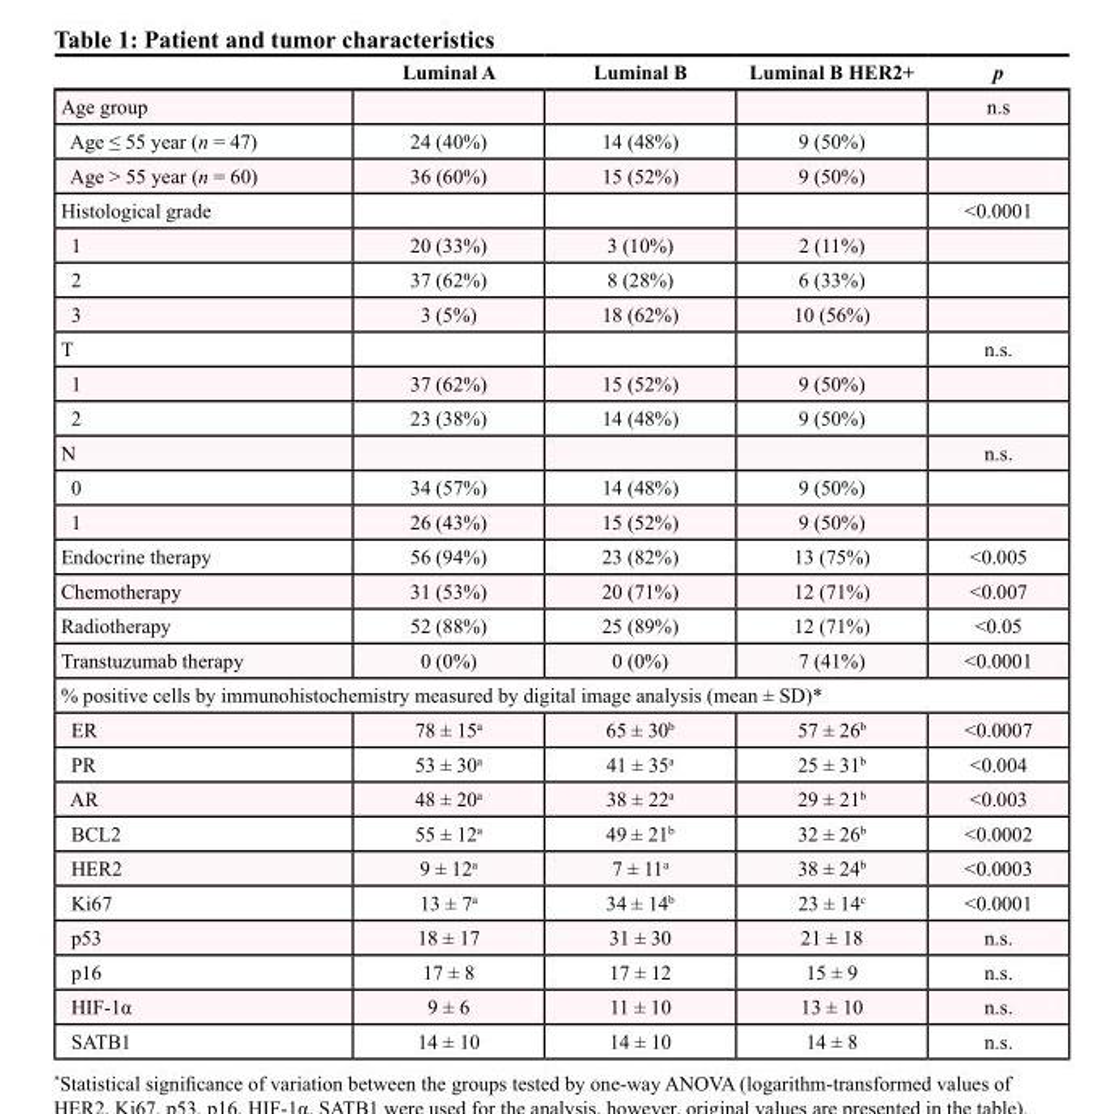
<table><thead><tr><td></td><td>Luminal A</td><td>Luminal B</td><td>Luminal B HER2+</td><td>p</td></tr></thead><tbody><tr><td>Age group</td><td></td><td></td><td></td><td>n.s</td></tr><tr><td>Age ≤ 55 year (n = 47)</td><td>24 (40%)</td><td>14 (48%)</td><td>9 (50%)</td><td></td></tr><tr><td>Age &gt; 55 year (n = 60)</td><td>36 (60%)</td><td>15 (52%)</td><td>9 (50%)</td><td></td></tr><tr><td>Histological grade</td><td></td><td></td><td></td><td>&lt;0.0001</td></tr><tr><td>1</td><td>20 (33%)</td><td>3 (10%)</td><td>2 (11%)</td><td></td></tr><tr><td>2</td><td>37 (62%)</td><td>8 (28%)</td><td>6 (33%)</td><td></td></tr><tr><td>3</td><td>3 (5%)</td><td>18 (62%)</td><td>10 (56%)</td><td></td></tr><tr><td>T</td><td></td><td></td><td></td><td>n.s.</td></tr><tr><td>1</td><td>37 (62%)</td><td>15 (52%)</td><td>9 (50%)</td><td></td></tr><tr><td>2</td><td>23 (38%)</td><td>14 (48%)</td><td>9 (50%)</td><td></td></tr><tr><td>N</td><td></td><td></td><td></td><td>n.s.</td></tr><tr><td>0</td><td>34 (57%)</td><td>14 (48%)</td><td>9 (50%)</td><td></td></tr><tr><td>1</td><td>26 (43%)</td><td>15 (52%)</td><td>9 (50%)</td><td></td></tr><tr><td>Endocrine therapy</td><td>56 (94%)</td><td>23 (82%)</td><td>13 (75%)</td><td>&lt;0.005</td></tr><tr><td>Chemotherapy</td><td>31 (53%)</td><td>20 (71%)</td><td>12 (71%)</td><td>&lt;0.007</td></tr><tr><td>Radiotherapy</td><td>52 (88%)</td><td>25 (89%)</td><td>12 (71%)</td><td>&lt;0.05</td></tr><tr><td>Transtuzumab therapy</td><td>0 (0%)</td><td>0 (0%)</td><td>7 (41%)</td><td>&lt;0.0001</td></tr><tr><td colspan="5">% positive cells by immunohistochemistry measured by digital image analysis (mean ± SD)*</td></tr><tr><td>ER</td><td>78 ± 15<sup>a</sup></td><td>65 ± 30<sup>b</sup></td><td>57 ± 26<sup>b</sup></td><td>&lt;0.0007</td></tr><tr><td>PR</td><td>53 ± 30<sup>a</sup></td><td>41 ± 35<sup>a</sup></td><td>25 ± 31<sup>b</sup></td><td>&lt;0.004</td></tr><tr><td>AR</td><td>48 ± 20<sup>a</sup></td><td>38 ± 22<sup>a</sup></td><td>29 ± 21<sup>b</sup></td><td>&lt;0.003</td></tr><tr><td>BCL2</td><td>55 ± 12<sup>a</sup></td><td>49 ± 21<sup>b</sup></td><td>32 ± 26<sup>b</sup></td><td>&lt;0.0002</td></tr><tr><td>HER2</td><td>9 ± 12<sup>a</sup></td><td>7 ± 11<sup>a</sup></td><td>38 ± 24<sup>b</sup></td><td>&lt;0.0003</td></tr><tr><td>Ki67</td><td>13 ± 7<sup>a</sup></td><td>34 ± 14<sup>b</sup></td><td>23 ± 14<sup>c</sup></td><td>&lt;0.0001</td></tr><tr><td>p53</td><td>18 ± 17</td><td>31 ± 30</td><td>21 ± 18</td><td>n.s.</td></tr><tr><td>p16</td><td>17 ± 8</td><td>17 ± 12</td><td>15 ± 9</td><td>n.s.</td></tr><tr><td>HIF-1α</td><td>9 ± 6</td><td>11 ± 10</td><td>13 ± 10</td><td>n.s.</td></tr><tr><td>SATB1</td><td>14 ± 10</td><td>14 ± 10</td><td>14 ± 8</td><td>n.s.</td></tr></tbody></table>